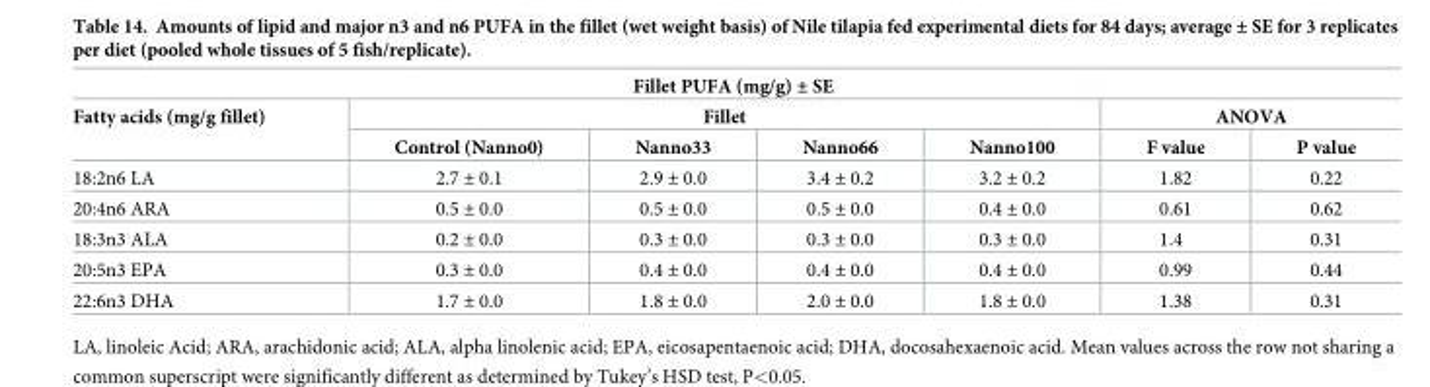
<table><thead><tr><td colspan="7">Fillet PUFA (mg/g) ± SE</td></tr><tr><td rowspan="2">Fatty acids (mg/g fillet)</td><td colspan="4">Fillet</td><td colspan="2">ANOVA</td></tr><tr><td>Control (Nanno0)</td><td>Nanno33</td><td>Nanno66</td><td>Nanno100</td><td>F value</td><td>P value</td></tr></thead><tbody><tr><td>18:2n6 LA</td><td>2.7 ± 0.1</td><td>2.9 ± 0.0</td><td>3.4 ± 0.2</td><td>3.2 ± 0.2</td><td>1.82</td><td>0.22</td></tr><tr><td>20:4n6 ARA</td><td>0.5 ± 0.0</td><td>0.5 ± 0.0</td><td>0.5 ± 0.0</td><td>0.4 ± 0.0</td><td>0.61</td><td>0.62</td></tr><tr><td>18:3n3 ALA</td><td>0.2 ± 0.0</td><td>0.3 ± 0.0</td><td>0.3 ± 0.0</td><td>0.3 ± 0.0</td><td>1.4</td><td>0.31</td></tr><tr><td>20:5n3 EPA</td><td>0.3 ± 0.0</td><td>0.4 ± 0.0</td><td>0.4 ± 0.0</td><td>0.4 ± 0.0</td><td>0.99</td><td>0.44</td></tr><tr><td>22:6n3 DHA</td><td>1.7 ± 0.0</td><td>1.8 ± 0.0</td><td>2.0 ± 0.0</td><td>1.8 ± 0.0</td><td>1.38</td><td>0.31</td></tr></tbody></table>